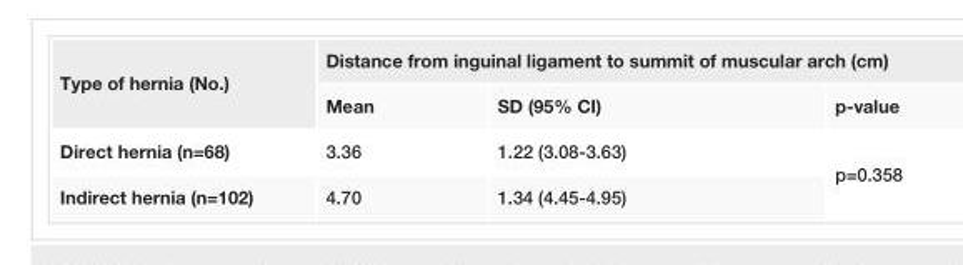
<table><tbody><tr><td rowspan="2">Type of hernia (No.)</td><td colspan="3">Distance from inguinal ligament to summit of muscular arch (cm)</td></tr><tr><td>Mean</td><td>SD (95% CI)</td><td>p-value</td></tr><tr><td>Direct hernia (n=68)</td><td>3.36</td><td>1.22 (3.08-3.63)</td><td rowspan="2">p=0.358</td></tr><tr><td>Indirect hernia (n=102)</td><td>4.70</td><td>1.34 (4.45-4.95)</td></tr></tbody></table>